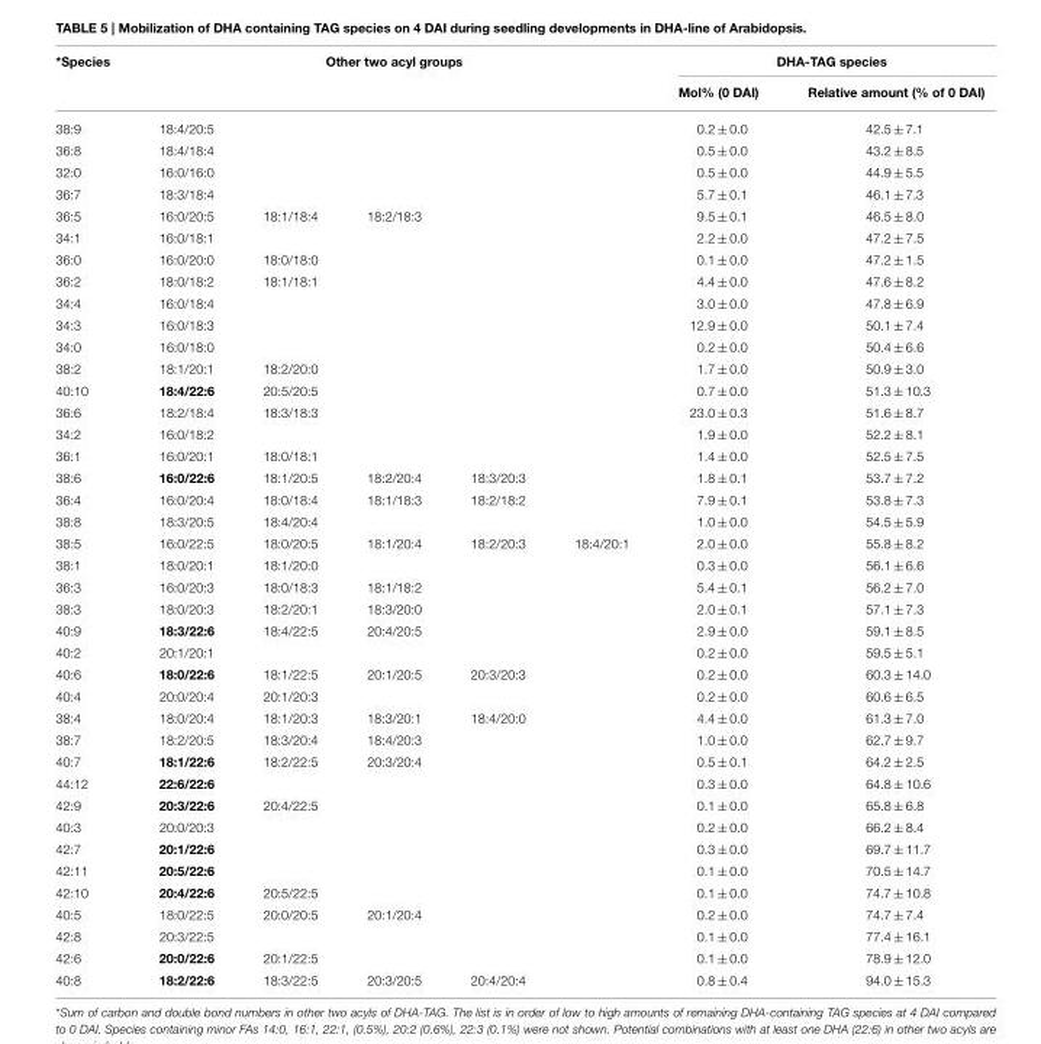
<table><thead><tr><td rowspan="2">*Species</td><td colspan="5">Other two acyl groups</td><td colspan="2">DHA-TAG species</td></tr><tr><td></td><td></td><td></td><td></td><td></td><td>Mol% (0 DAI)</td><td>Relative amount (% of 0 DAI)</td></tr></thead><tbody><tr><td>38:9</td><td>18:4/20:5</td><td></td><td></td><td></td><td></td><td>0.2 ± 0.0</td><td>42.5 ± 7.1</td></tr><tr><td>36:8</td><td>18:4/18:4</td><td></td><td></td><td></td><td></td><td>0.5 ± 0.0</td><td>43.2 ± 8.5</td></tr><tr><td>32:0</td><td>16:0/16:0</td><td></td><td></td><td></td><td></td><td>0.5 ± 0.0</td><td>44.9 ± 5.5</td></tr><tr><td>36:7</td><td>18:3/18:4</td><td></td><td></td><td></td><td></td><td>5.7 ± 0.1</td><td>46.1 ± 7.3</td></tr><tr><td>36:5</td><td>16:0/20:5</td><td>18:1/18:4</td><td>18:2/18:3</td><td></td><td></td><td>9.5 ± 0.1</td><td>46.5 ± 8.0</td></tr><tr><td>34:1</td><td>16:0/18:1</td><td></td><td></td><td></td><td></td><td>2.2 ± 0.0</td><td>47.2 ± 7.5</td></tr><tr><td>36:0</td><td>16:0/20:0</td><td>18:0/18:0</td><td></td><td></td><td></td><td>0.1 ± 0.0</td><td>47.2 ± 1.5</td></tr><tr><td>36:2</td><td>18:0/18:2</td><td>18:1/18:1</td><td></td><td></td><td></td><td>4.4 ± 0.0</td><td>47.6 ± 8.2</td></tr><tr><td>34:4</td><td>16:0/18:4</td><td></td><td></td><td></td><td></td><td>3.0 ± 0.0</td><td>47.8 ± 6.9</td></tr><tr><td>34:3</td><td>16:0/18:3</td><td></td><td></td><td></td><td></td><td>12.9 ± 0.0</td><td>50.1 ± 7.4</td></tr><tr><td>34:0</td><td>16:0/18:0</td><td></td><td></td><td></td><td></td><td>0.2 ± 0.0</td><td>50.4 ± 6.6</td></tr><tr><td>38:2</td><td>18:1/20:1</td><td>18:2/20:0</td><td></td><td></td><td></td><td>1.7 ± 0.0</td><td>50.9 ± 3.0</td></tr><tr><td>40:10</td><td>18:4/22:6</td><td>20:5/20:5</td><td></td><td></td><td></td><td>0.7 ± 0.0</td><td>51.3 ± 10.3</td></tr><tr><td>36:6</td><td>18:2/18:4</td><td>18:3/18:3</td><td></td><td></td><td></td><td>23.0 ± 0.3</td><td>51.6 ± 8.7</td></tr><tr><td>34:2</td><td>16:0/18:2</td><td></td><td></td><td></td><td></td><td>1.9 ± 0.0</td><td>52.2 ± 8.1</td></tr><tr><td>36:1</td><td>16:0/20:1</td><td>18:0/18:1</td><td></td><td></td><td></td><td>1.4 ± 0.0</td><td>52.5 ± 7.5</td></tr><tr><td>38:6</td><td>16:0/22:6</td><td>18:1/20:5</td><td>18:2/20:4</td><td>18:3/20:3</td><td></td><td>1.8 ± 0.1</td><td>53.7 ± 7.2</td></tr><tr><td>36:4</td><td>16:0/20:4</td><td>18:0/18:4</td><td>18:1/18:3</td><td>18:2/18:2</td><td></td><td>7.9 ± 0.1</td><td>53.8 ± 7.3</td></tr><tr><td>38:8</td><td>18:3/20:5</td><td>18:4/20:4</td><td></td><td></td><td></td><td>1.0 ± 0.0</td><td>54.5 ± 5.9</td></tr><tr><td>38:5</td><td>16:0/22:5</td><td>18:0/20:5</td><td>18:1/20:4</td><td>18:2/20:3</td><td>18:4/20:1</td><td>2.0 ± 0.0</td><td>55.8 ± 8.2</td></tr><tr><td>38:1</td><td>18:0/20:1</td><td>18:1/20:0</td><td></td><td></td><td></td><td>0.3 ± 0.0</td><td>56.1 ± 6.6</td></tr><tr><td>36:3</td><td>16:0/20:3</td><td>18:0/18:3</td><td>18:1/18:2</td><td></td><td></td><td>5.4 ± 0.1</td><td>56.2 ± 7.0</td></tr><tr><td>38:3</td><td>18:0/20:3</td><td>18:2/20:1</td><td>18:3/20:0</td><td></td><td></td><td>2.0 ± 0.1</td><td>57.1 ± 7.3</td></tr><tr><td>40:9</td><td>18:3/22:6</td><td>18:4/22:5</td><td>20:4/20:5</td><td></td><td></td><td>2.9 ± 0.0</td><td>59.1 ± 8.5</td></tr><tr><td>40:2</td><td>20:1/20:1</td><td></td><td></td><td></td><td></td><td>0.2 ± 0.0</td><td>59.5 ± 5.1</td></tr><tr><td>40:6</td><td>18:0/22:6</td><td>18:1/22:5</td><td>20:1/20:5</td><td>20:3/20:3</td><td></td><td>0.2 ± 0.0</td><td>60.3 ± 14.0</td></tr><tr><td>40:4</td><td>20:0/20:4</td><td>20:1/20:3</td><td></td><td></td><td></td><td>0.2 ± 0.0</td><td>60.6 ± 6.5</td></tr><tr><td>38:4</td><td>18:0/20:4</td><td>18:1/20:3</td><td>18:3/20:1</td><td>18:4/20:0</td><td></td><td>4.4 ± 0.0</td><td>61.3 ± 7.0</td></tr><tr><td>38:7</td><td>18:2/20:5</td><td>18:3/20:4</td><td>18:4/20:3</td><td></td><td></td><td>1.0 ± 0.0</td><td>62.7 ± 9.7</td></tr><tr><td>40:7</td><td>18:1/22:6</td><td>18:2/22:5</td><td>20:3/20:4</td><td></td><td></td><td>0.5 ± 0.1</td><td>64.2 ± 2.5</td></tr><tr><td>44:12</td><td>22:6/22:6</td><td></td><td></td><td></td><td></td><td>0.3 ± 0.0</td><td>64.8 ± 10.6</td></tr><tr><td>42:9</td><td>20:3/22:6</td><td>20:4/22:5</td><td></td><td></td><td></td><td>0.1 ± 0.0</td><td>65.8 ± 6.8</td></tr><tr><td>40:3</td><td>20:0/20:3</td><td></td><td></td><td></td><td></td><td>0.2 ± 0.0</td><td>66.2 ± 8.4</td></tr><tr><td>42:7</td><td>20:1/22:6</td><td></td><td></td><td></td><td></td><td>0.3 ± 0.0</td><td>69.7 ± 11.7</td></tr><tr><td>42:11</td><td>20:5/22:6</td><td></td><td></td><td></td><td></td><td>0.1 ± 0.0</td><td>70.5 ± 14.7</td></tr><tr><td>42:10</td><td>20:4/22:6</td><td>20:5/22:5</td><td></td><td></td><td></td><td>0.1 ± 0.0</td><td>74.7 ± 10.8</td></tr><tr><td>40:5</td><td>18:0/22:5</td><td>20:0/20:5</td><td>20:1/20:4</td><td></td><td></td><td>0.2 ± 0.0</td><td>74.7 ± 7.4</td></tr><tr><td>42:8</td><td>20:3/22:5</td><td></td><td></td><td></td><td></td><td>0.1 ± 0.0</td><td>77.4 ± 16.1</td></tr><tr><td>42:6</td><td>20:0/22:6</td><td>20:1/22:5</td><td></td><td></td><td></td><td>0.1 ± 0.0</td><td>78.9 ± 12.0</td></tr><tr><td>40:8</td><td>18:2/22:6</td><td>18:3/22:5</td><td>20:3/20:5</td><td>20:4/20:4</td><td></td><td>0.8 ± 0.4</td><td>94.0 ± 15.3</td></tr></tbody></table>